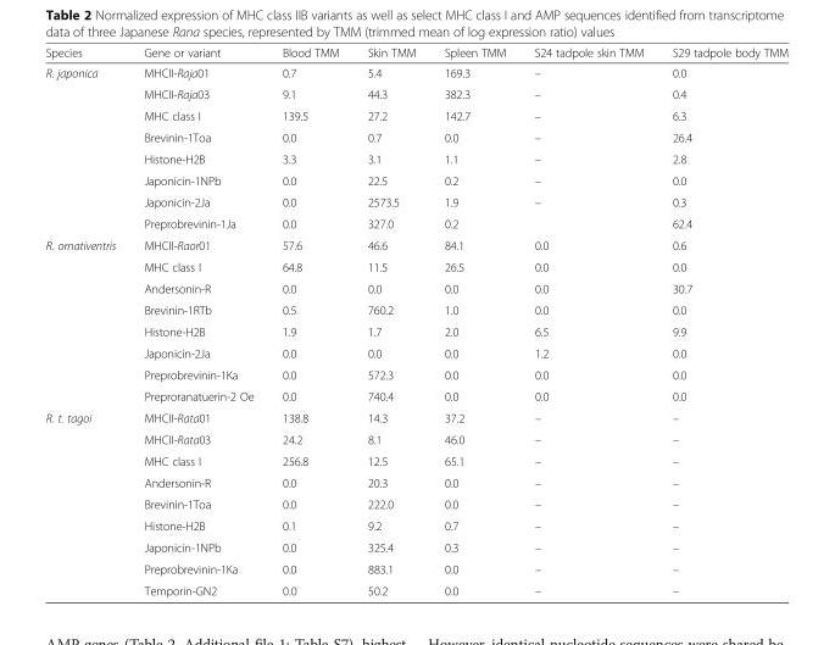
<table><thead><tr><td>Species</td><td>Gene or variant</td><td>Blood TMM</td><td>Skin TMM</td><td>Spleen TMM</td><td>S24 tadpole skin TMM</td><td>S29 tadpole body TMM</td></tr></thead><tbody><tr><td rowspan="8">R. japonica</td><td>MHCII-Raja01</td><td>0.7</td><td>5.4</td><td>169.3</td><td>–</td><td>0.0</td></tr><tr><td>MHCII-Raja03</td><td>9.1</td><td>44.3</td><td>382.3</td><td>–</td><td>0.4</td></tr><tr><td>MHC class I</td><td>139.5</td><td>27.2</td><td>142.7</td><td>–</td><td>6.3</td></tr><tr><td>Brevinin-1Toa</td><td>0.0</td><td>0.7</td><td>0.0</td><td>–</td><td>26.4</td></tr><tr><td>Histone-H2B</td><td>3.3</td><td>3.1</td><td>1.1</td><td>–</td><td>2.8</td></tr><tr><td>Japonicin-1NPb</td><td>0.0</td><td>22.5</td><td>0.2</td><td>–</td><td>0.0</td></tr><tr><td>Japonicin-2Ja</td><td>0.0</td><td>2573.5</td><td>1.9</td><td>–</td><td>0.3</td></tr><tr><td>Preprobrevinin-1Ja</td><td>0.0</td><td>327.0</td><td>0.2</td><td></td><td>62.4</td></tr><tr><td rowspan="8">R. ornativentris</td><td>MHCII-Raor01</td><td>57.6</td><td>46.6</td><td>84.1</td><td>0.0</td><td>0.6</td></tr><tr><td>MHC class I</td><td>64.8</td><td>11.5</td><td>26.5</td><td>0.0</td><td>0.0</td></tr><tr><td>Andersonin-R</td><td>0.0</td><td>0.0</td><td>0.0</td><td>0.0</td><td>30.7</td></tr><tr><td>Brevinin-1RTb</td><td>0.5</td><td>760.2</td><td>1.0</td><td>0.0</td><td>0.0</td></tr><tr><td>Histone-H2B</td><td>1.9</td><td>1.7</td><td>2.0</td><td>6.5</td><td>9.9</td></tr><tr><td>Japonicin-2Ja</td><td>0.0</td><td>0.0</td><td>0.0</td><td>1.2</td><td>0.0</td></tr><tr><td>Preprobrevinin-1Ka</td><td>0.0</td><td>572.3</td><td>0.0</td><td>0.0</td><td>0.0</td></tr><tr><td>Preproranatuerin-2 Oe</td><td>0.0</td><td>740.4</td><td>0.0</td><td>0.0</td><td>0.0</td></tr><tr><td rowspan="9">R. t. tagoi</td><td>MHCII-Rata01</td><td>138.8</td><td>14.3</td><td>37.2</td><td>–</td><td>–</td></tr><tr><td>MHCII-Rata03</td><td>24.2</td><td>8.1</td><td>46.0</td><td>–</td><td>–</td></tr><tr><td>MHC class I</td><td>256.8</td><td>12.5</td><td>65.1</td><td>–</td><td>–</td></tr><tr><td>Andersonin-R</td><td>0.0</td><td>20.3</td><td>0.0</td><td>–</td><td>–</td></tr><tr><td>Brevinin-1Toa</td><td>0.0</td><td>222.0</td><td>0.0</td><td>–</td><td>–</td></tr><tr><td>Histone-H2B</td><td>0.1</td><td>9.2</td><td>0.7</td><td>–</td><td>–</td></tr><tr><td>Japonicin-1NPb</td><td>0.0</td><td>325.4</td><td>0.3</td><td>–</td><td>–</td></tr><tr><td>Preprobrevinin-1Ka</td><td>0.0</td><td>883.1</td><td>0.0</td><td>–</td><td>–</td></tr><tr><td>Temporin-GN2</td><td>0.0</td><td>50.2</td><td>0.0</td><td>–</td><td>–</td></tr></tbody></table>